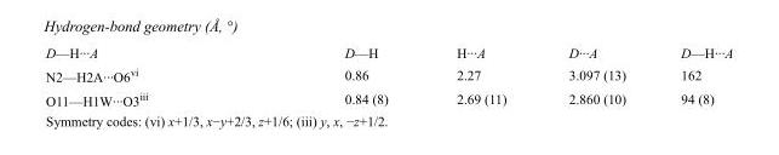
<table><tbody><tr><td>D—H···A</td><td>D—H</td><td>H···A</td><td>D···A</td><td>D—H···A</td></tr><tr><td>N2—H2A···O6<sup>vi</sup></td><td>0.86</td><td>2.27</td><td>3.097 (13)</td><td>162</td></tr><tr><td>O11—H1W···O3<sup>iii</sup></td><td>0.84 (8)</td><td>2.69 (11)</td><td>2.860 (10)</td><td>94 (8)</td></tr></tbody></table>